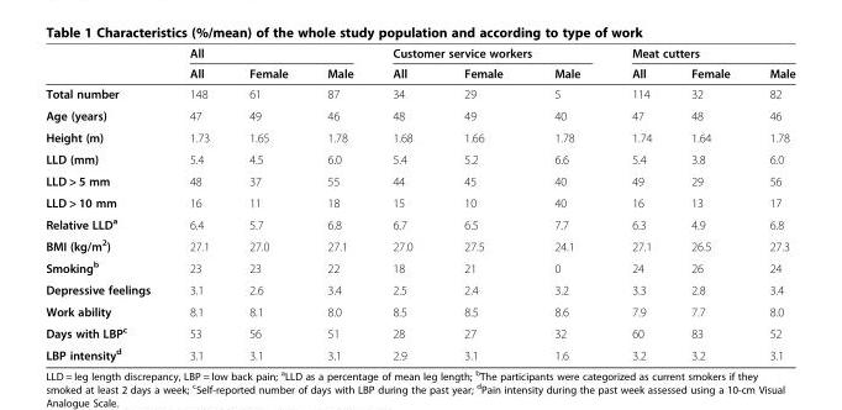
<table><thead><tr><td rowspan="2"></td><td colspan="3">All</td><td colspan="3">Customer service workers</td><td colspan="3">Meat cutters</td></tr><tr><td>All</td><td>Female</td><td>Male</td><td>All</td><td>Female</td><td>Male</td><td>All</td><td>Female</td><td>Male</td></tr></thead><tbody><tr><td>Total number</td><td>148</td><td>61</td><td>87</td><td>34</td><td>29</td><td>5</td><td>114</td><td>32</td><td>82</td></tr><tr><td>Age (years)</td><td>47</td><td>49</td><td>46</td><td>48</td><td>49</td><td>40</td><td>47</td><td>48</td><td>46</td></tr><tr><td>Height (m)</td><td>1.73</td><td>1.65</td><td>1.78</td><td>1.68</td><td>1.66</td><td>1.78</td><td>1.74</td><td>1.64</td><td>1.78</td></tr><tr><td>LLD (mm)</td><td>5.4</td><td>4.5</td><td>6.0</td><td>5.4</td><td>5.2</td><td>6.6</td><td>5.4</td><td>3.8</td><td>6.0</td></tr><tr><td>LLD &gt; 5 mm</td><td>48</td><td>37</td><td>55</td><td>44</td><td>45</td><td>40</td><td>49</td><td>29</td><td>56</td></tr><tr><td>LLD &gt; 10 mm</td><td>16</td><td>11</td><td>18</td><td>15</td><td>10</td><td>40</td><td>16</td><td>13</td><td>17</td></tr><tr><td>Relative LLD<sup>a</sup></td><td>6.4</td><td>5.7</td><td>6.8</td><td>6.7</td><td>6.5</td><td>7.7</td><td>6.3</td><td>4.9</td><td>6.8</td></tr><tr><td>BMI (kg/m<sup>2</sup>)</td><td>27.1</td><td>27.0</td><td>27.1</td><td>27.0</td><td>27.5</td><td>24.1</td><td>27.1</td><td>26.5</td><td>27.3</td></tr><tr><td>Smoking<sup>b</sup></td><td>23</td><td>23</td><td>22</td><td>18</td><td>21</td><td>0</td><td>24</td><td>26</td><td>24</td></tr><tr><td>Depressive feelings</td><td>3.1</td><td>2.6</td><td>3.4</td><td>2.5</td><td>2.4</td><td>3.2</td><td>3.3</td><td>2.8</td><td>3.4</td></tr><tr><td>Work ability</td><td>8.1</td><td>8.1</td><td>8.0</td><td>8.5</td><td>8.5</td><td>8.6</td><td>7.9</td><td>7.7</td><td>8.0</td></tr><tr><td>Days with LBP<sup>c</sup></td><td>53</td><td>56</td><td>51</td><td>28</td><td>27</td><td>32</td><td>60</td><td>83</td><td>52</td></tr><tr><td>LBP intensity<sup>d</sup></td><td>3.1</td><td>3.1</td><td>3.1</td><td>2.9</td><td>3.1</td><td>1.6</td><td>3.2</td><td>3.2</td><td>3.1</td></tr></tbody></table>